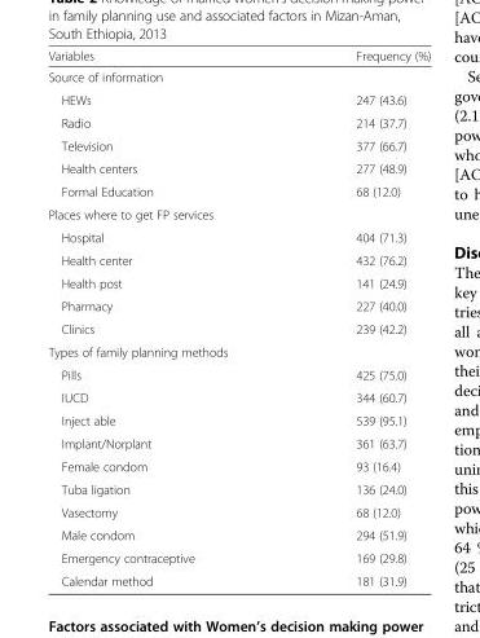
<table><thead><tr><td>Variables</td><td>Frequency (%)</td></tr></thead><tbody><tr><td colspan="2">Source of information</td></tr><tr><td>HEWs</td><td>247 (43.6)</td></tr><tr><td>Radio</td><td>214 (37.7)</td></tr><tr><td>Television</td><td>377 (66.7)</td></tr><tr><td>Health centers</td><td>277 (48.9)</td></tr><tr><td>Formal Education</td><td>68 (12.0)</td></tr><tr><td colspan="2">Places where to get FP services</td></tr><tr><td>Hospital</td><td>404 (71.3)</td></tr><tr><td>Health center</td><td>432 (76.2)</td></tr><tr><td>Health post</td><td>141 (24.9)</td></tr><tr><td>Pharmacy</td><td>227 (40.0)</td></tr><tr><td>Clinics</td><td>239 (42.2)</td></tr><tr><td colspan="2">Types of family planning methods</td></tr><tr><td>Pills</td><td>425 (75.0)</td></tr><tr><td>IUCD</td><td>344 (60.7)</td></tr><tr><td>Inject able</td><td>539 (95.1)</td></tr><tr><td>Implant/Norplant</td><td>361 (63.7)</td></tr><tr><td>Female condom</td><td>93 (16.4)</td></tr><tr><td>Tuba ligation</td><td>136 (24.0)</td></tr><tr><td>Vasectomy</td><td>68 (12.0)</td></tr><tr><td>Male condom</td><td>294 (51.9)</td></tr><tr><td>Emergency contraceptive</td><td>169 (29.8)</td></tr><tr><td>Calendar method</td><td>181 (31.9)</td></tr></tbody></table>